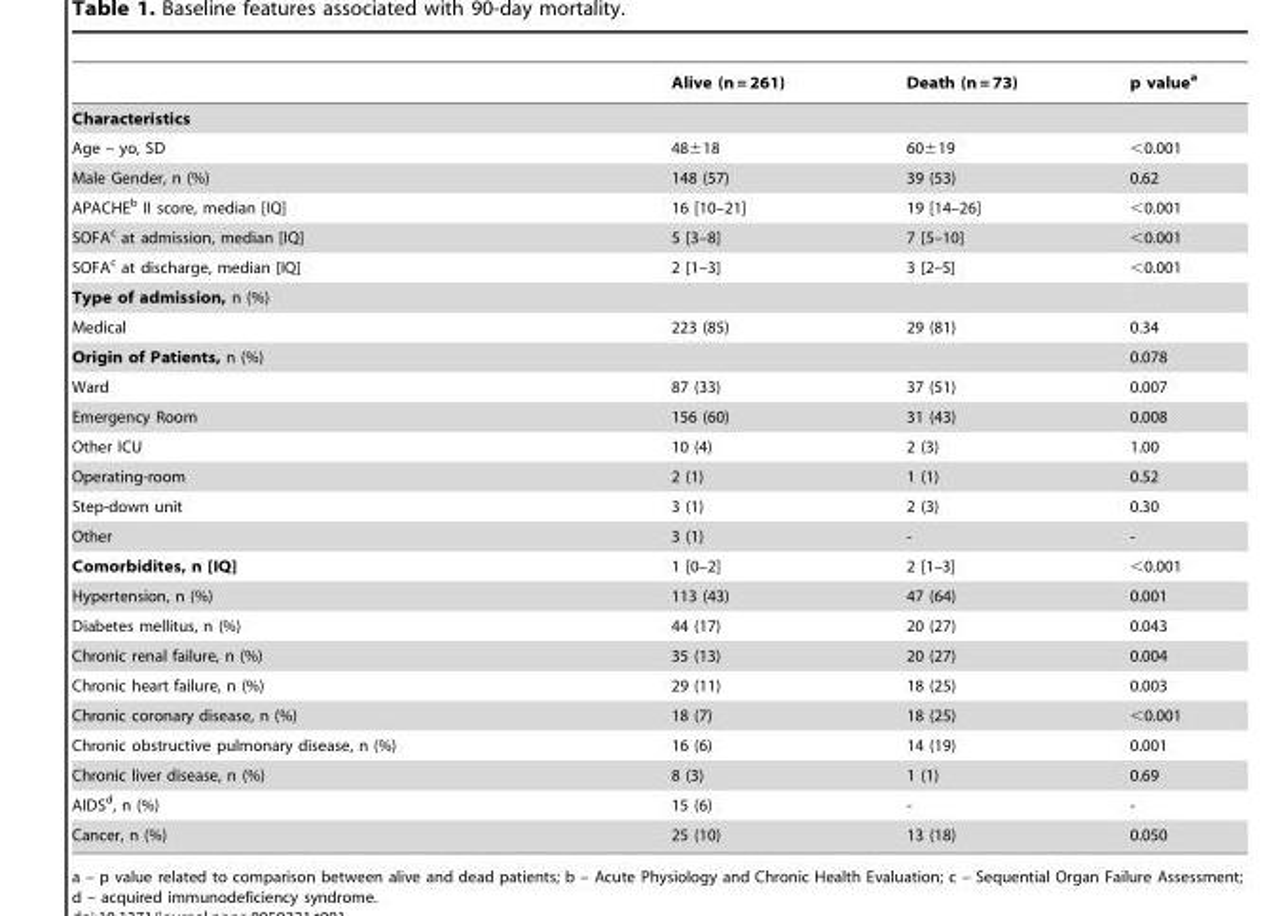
<table><thead><tr><td></td><td>Alive (n = 261)</td><td>Death (n = 73)</td><td>p value<sup>a</sup></td></tr></thead><tbody><tr><td colspan="4">Characteristics</td></tr><tr><td>Age – yo, SD</td><td>48±18</td><td>60±19</td><td>&lt;0.001</td></tr><tr><td>Male Gender, n (%)</td><td>148 (57)</td><td>39 (53)</td><td>0.62</td></tr><tr><td>APACHE<sup>b</sup> II score, median [IQ]</td><td>16 [10–21]</td><td>19 [14–26]</td><td>&lt;0.001</td></tr><tr><td>SOFA<sup>c</sup> at admission, median [IQ]</td><td>5 [3–8]</td><td>7 [5–10]</td><td>&lt;0.001</td></tr><tr><td>SOFA<sup>c</sup> at discharge, median [IQ]</td><td>2 [1–3]</td><td>3 [2–5]</td><td>&lt;0.001</td></tr><tr><td colspan="4">Type of admission, n (%)</td></tr><tr><td>Medical</td><td>223 (85)</td><td>29 (81)</td><td>0.34</td></tr><tr><td>Origin of Patients, n (%)</td><td></td><td></td><td>0.078</td></tr><tr><td>Ward</td><td>87 (33)</td><td>37 (51)</td><td>0.007</td></tr><tr><td>Emergency Room</td><td>156 (60)</td><td>31 (43)</td><td>0.008</td></tr><tr><td>Other ICU</td><td>10 (4)</td><td>2 (3)</td><td>1.00</td></tr><tr><td>Operating-room</td><td>2 (1)</td><td>1 (1)</td><td>0.52</td></tr><tr><td>Step-down unit</td><td>3 (1)</td><td>2 (3)</td><td>0.30</td></tr><tr><td>Other</td><td>3 (1)</td><td>-</td><td>-</td></tr><tr><td>Comorbidites, n [IQ]</td><td>1 [0–2]</td><td>2 [1–3]</td><td>&lt;0.001</td></tr><tr><td>Hypertension, n (%)</td><td>113 (43)</td><td>47 (64)</td><td>0.001</td></tr><tr><td>Diabetes mellitus, n (%)</td><td>44 (17)</td><td>20 (27)</td><td>0.043</td></tr><tr><td>Chronic renal failure, n (%)</td><td>35 (13)</td><td>20 (27)</td><td>0.004</td></tr><tr><td>Chronic heart failure, n (%)</td><td>29 (11)</td><td>18 (25)</td><td>0.003</td></tr><tr><td>Chronic coronary disease, n (%)</td><td>18 (7)</td><td>18 (25)</td><td>&lt;0.001</td></tr><tr><td>Chronic obstructive pulmonary disease, n (%)</td><td>16 (6)</td><td>14 (19)</td><td>0.001</td></tr><tr><td>Chronic liver disease, n (%)</td><td>8 (3)</td><td>1 (1)</td><td>0.69</td></tr><tr><td>AIDS<sup>d</sup>, n (%)</td><td>15 (6)</td><td>-</td><td>-</td></tr><tr><td>Cancer, n (%)</td><td>25 (10)</td><td>13 (18)</td><td>0.050</td></tr></tbody></table>